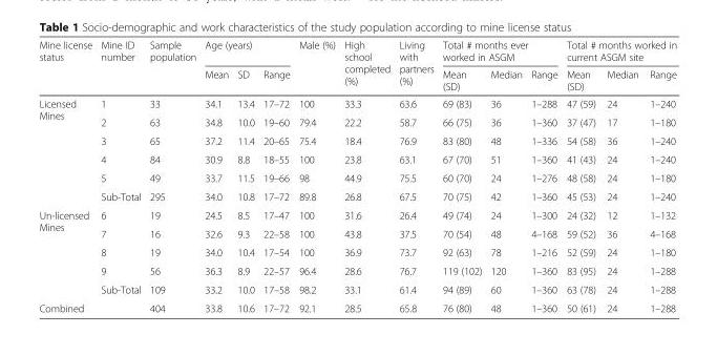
<table><thead><tr><td rowspan="2">Mine license status</td><td rowspan="2">Mine ID number</td><td rowspan="2">Sample population</td><td colspan="3">Age (years)</td><td rowspan="2">Male (%)</td><td rowspan="2">High school completed (%)</td><td rowspan="2">Living with partners (%)</td><td colspan="3">Total # months ever worked in ASGM</td><td colspan="3">Total # months worked in current ASGM site</td></tr><tr><td>Mean</td><td>SD</td><td>Range</td><td>Mean (SD)</td><td>Median</td><td>Range</td><td>Mean (SD)</td><td>Median</td><td>Range</td></tr></thead><tbody><tr><td rowspan="6">Licensed Mines</td><td>1</td><td>33</td><td>34.1</td><td>13.4</td><td>17–72</td><td>100</td><td>33.3</td><td>63.6</td><td>69 (83)</td><td>36</td><td>1–288</td><td>47 (59)</td><td>24</td><td>1–240</td></tr><tr><td>2</td><td>63</td><td>34.8</td><td>10.0</td><td>19–60</td><td>79.4</td><td>22.2</td><td>58.7</td><td>66 (75)</td><td>36</td><td>1–360</td><td>37 (47)</td><td>17</td><td>1–180</td></tr><tr><td>3</td><td>65</td><td>37.2</td><td>11.4</td><td>20–65</td><td>75.4</td><td>18.4</td><td>76.9</td><td>83 (80)</td><td>48</td><td>1–336</td><td>54 (58)</td><td>36</td><td>1–240</td></tr><tr><td>4</td><td>84</td><td>30.9</td><td>8.8</td><td>18–55</td><td>100</td><td>23.8</td><td>63.1</td><td>67 (70)</td><td>51</td><td>1–360</td><td>41 (43)</td><td>24</td><td>1–240</td></tr><tr><td>5</td><td>49</td><td>33.7</td><td>11.5</td><td>19–66</td><td>98</td><td>44.9</td><td>75.5</td><td>60 (70)</td><td>24</td><td>1–276</td><td>48 (58)</td><td>24</td><td>1–180</td></tr><tr><td>Sub-Total</td><td>295</td><td>34.0</td><td>10.8</td><td>17–72</td><td>89.8</td><td>26.8</td><td>67.5</td><td>70 (75)</td><td>42</td><td>1–360</td><td>45 (53)</td><td>24</td><td>1–240</td></tr><tr><td rowspan="5">Un-licensed Mines</td><td>6</td><td>19</td><td>24.5</td><td>8.5</td><td>17–47</td><td>100</td><td>31.6</td><td>26.4</td><td>49 (74)</td><td>24</td><td>1–300</td><td>24 (32)</td><td>12</td><td>1–132</td></tr><tr><td>7</td><td>16</td><td>32.6</td><td>9.3</td><td>22–58</td><td>100</td><td>43.8</td><td>37.5</td><td>70 (54)</td><td>48</td><td>4–168</td><td>59 (52)</td><td>36</td><td>4–168</td></tr><tr><td>8</td><td>19</td><td>34.0</td><td>10.4</td><td>17–54</td><td>100</td><td>36.9</td><td>73.7</td><td>92 (63)</td><td>78</td><td>1–216</td><td>52 (59)</td><td>24</td><td>1–180</td></tr><tr><td>9</td><td>56</td><td>36.3</td><td>8.9</td><td>22–57</td><td>96.4</td><td>28.6</td><td>76.7</td><td>119 (102)</td><td>120</td><td>1–360</td><td>83 (95)</td><td>24</td><td>1–288</td></tr><tr><td>Sub-Total</td><td>109</td><td>33.2</td><td>10.0</td><td>17–58</td><td>98.2</td><td>33.1</td><td>61.4</td><td>94 (89)</td><td>60</td><td>1–360</td><td>63 (78)</td><td>24</td><td>1–288</td></tr><tr><td colspan="2">Combined</td><td>404</td><td>33.8</td><td>10.6</td><td>17–72</td><td>92.1</td><td>28.5</td><td>65.8</td><td>76 (80)</td><td>48</td><td>1–360</td><td>50 (61)</td><td>24</td><td>1–288</td></tr></tbody></table>